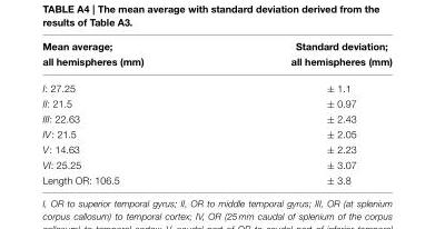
<table><thead><tr><td>Mean average; all hemispheres (mm)</td><td>Standard deviation; all hemispheres (mm)</td></tr></thead><tbody><tr><td>I: 27.25</td><td>± 1.1</td></tr><tr><td>II: 21.5</td><td>± 0.97</td></tr><tr><td>III: 22.63</td><td>± 2.43</td></tr><tr><td>IV: 21.5</td><td>± 2.05</td></tr><tr><td>V: 14.63</td><td>± 2.23</td></tr><tr><td>VI: 25.25</td><td>± 3.07</td></tr><tr><td>Length OR: 106.5</td><td>± 3.8</td></tr></tbody></table>